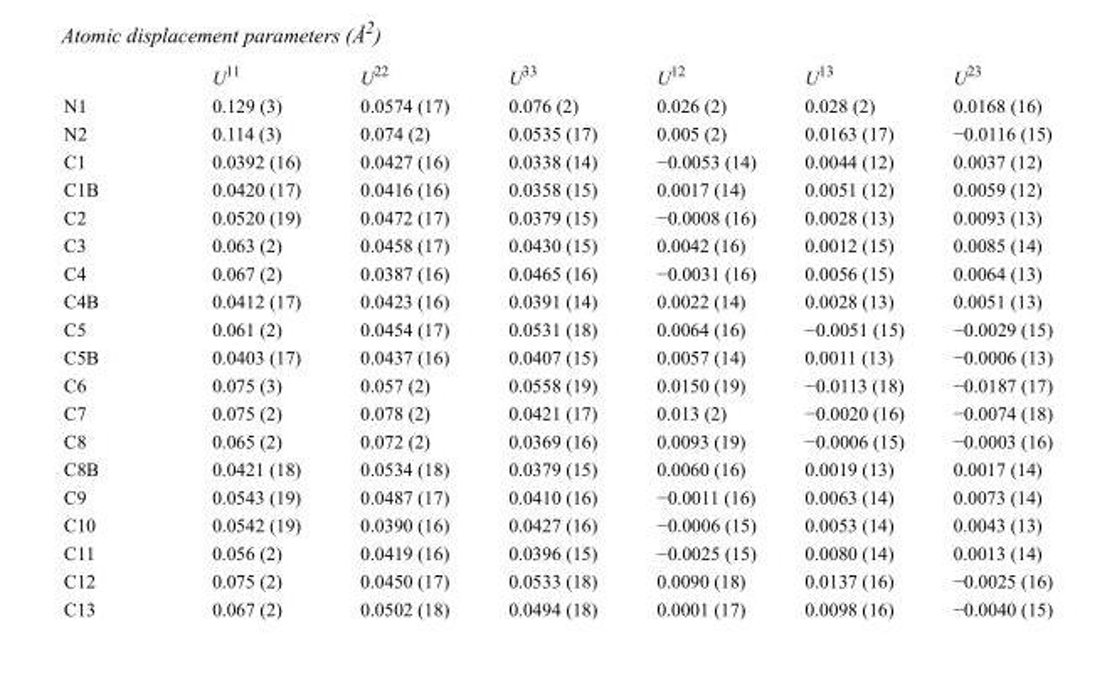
<table><thead><tr><td></td><td>U<sup>11</sup></td><td>U<sup>22</sup></td><td>U<sup>33</sup></td><td>U<sup>12</sup></td><td>U<sup>13</sup></td><td>U<sup>23</sup></td></tr></thead><tbody><tr><td>N1</td><td>0.129 (3)</td><td>0.0574 (17)</td><td>0.076 (2)</td><td>0.026 (2)</td><td>0.028 (2)</td><td>0.0168 (16)</td></tr><tr><td>N2</td><td>0.114 (3)</td><td>0.074 (2)</td><td>0.0535 (17)</td><td>0.005 (2)</td><td>0.0163 (17)</td><td>−0.0116 (15)</td></tr><tr><td>C1</td><td>0.0392 (16)</td><td>0.0427 (16)</td><td>0.0338 (14)</td><td>−0.0053 (14)</td><td>0.0044 (12)</td><td>0.0037 (12)</td></tr><tr><td>C1B</td><td>0.0420 (17)</td><td>0.0416 (16)</td><td>0.0358 (15)</td><td>0.0017 (14)</td><td>0.0051 (12)</td><td>0.0059 (12)</td></tr><tr><td>C2</td><td>0.0520 (19)</td><td>0.0472 (17)</td><td>0.0379 (15)</td><td>−0.0008 (16)</td><td>0.0028 (13)</td><td>0.0093 (13)</td></tr><tr><td>C3</td><td>0.063 (2)</td><td>0.0458 (17)</td><td>0.0430 (15)</td><td>0.0042 (16)</td><td>0.0012 (15)</td><td>0.0085 (14)</td></tr><tr><td>C4</td><td>0.067 (2)</td><td>0.0387 (16)</td><td>0.0465 (16)</td><td>−0.0031 (16)</td><td>0.0056 (15)</td><td>0.0064 (13)</td></tr><tr><td>C4B</td><td>0.0412 (17)</td><td>0.0423 (16)</td><td>0.0391 (14)</td><td>0.0022 (14)</td><td>0.0028 (13)</td><td>0.0051 (13)</td></tr><tr><td>C5</td><td>0.061 (2)</td><td>0.0454 (17)</td><td>0.0531 (18)</td><td>0.0064 (16)</td><td>−0.0051 (15)</td><td>−0.0029 (15)</td></tr><tr><td>C5B</td><td>0.0403 (17)</td><td>0.0437 (16)</td><td>0.0407 (15)</td><td>0.0057 (14)</td><td>0.0011 (13)</td><td>−0.0006 (13)</td></tr><tr><td>C6</td><td>0.075 (3)</td><td>0.057 (2)</td><td>0.0558 (19)</td><td>0.0150 (19)</td><td>−0.0113 (18)</td><td>−0.0187 (17)</td></tr><tr><td>C7</td><td>0.075 (2)</td><td>0.078 (2)</td><td>0.0421 (17)</td><td>0.013 (2)</td><td>−0.0020 (16)</td><td>−0.0074 (18)</td></tr><tr><td>C8</td><td>0.065 (2)</td><td>0.072 (2)</td><td>0.0369 (16)</td><td>0.0093 (19)</td><td>−0.0006 (15)</td><td>−0.0003 (16)</td></tr><tr><td>C8B</td><td>0.0421 (18)</td><td>0.0534 (18)</td><td>0.0379 (15)</td><td>0.0060 (16)</td><td>0.0019 (13)</td><td>0.0017 (14)</td></tr><tr><td>C9</td><td>0.0543 (19)</td><td>0.0487 (17)</td><td>0.0410 (16)</td><td>−0.0011 (16)</td><td>0.0063 (14)</td><td>0.0073 (14)</td></tr><tr><td>C10</td><td>0.0542 (19)</td><td>0.0390 (16)</td><td>0.0427 (16)</td><td>−0.0006 (15)</td><td>0.0053 (14)</td><td>0.0043 (13)</td></tr><tr><td>C11</td><td>0.056 (2)</td><td>0.0419 (16)</td><td>0.0396 (15)</td><td>−0.0025 (15)</td><td>0.0080 (14)</td><td>0.0013 (14)</td></tr><tr><td>C12</td><td>0.075 (2)</td><td>0.0450 (17)</td><td>0.0533 (18)</td><td>0.0090 (18)</td><td>0.0137 (16)</td><td>−0.0025 (16)</td></tr><tr><td>C13</td><td>0.067 (2)</td><td>0.0502 (18)</td><td>0.0494 (18)</td><td>0.0001 (17)</td><td>0.0098 (16)</td><td>−0.0040 (15)</td></tr></tbody></table>